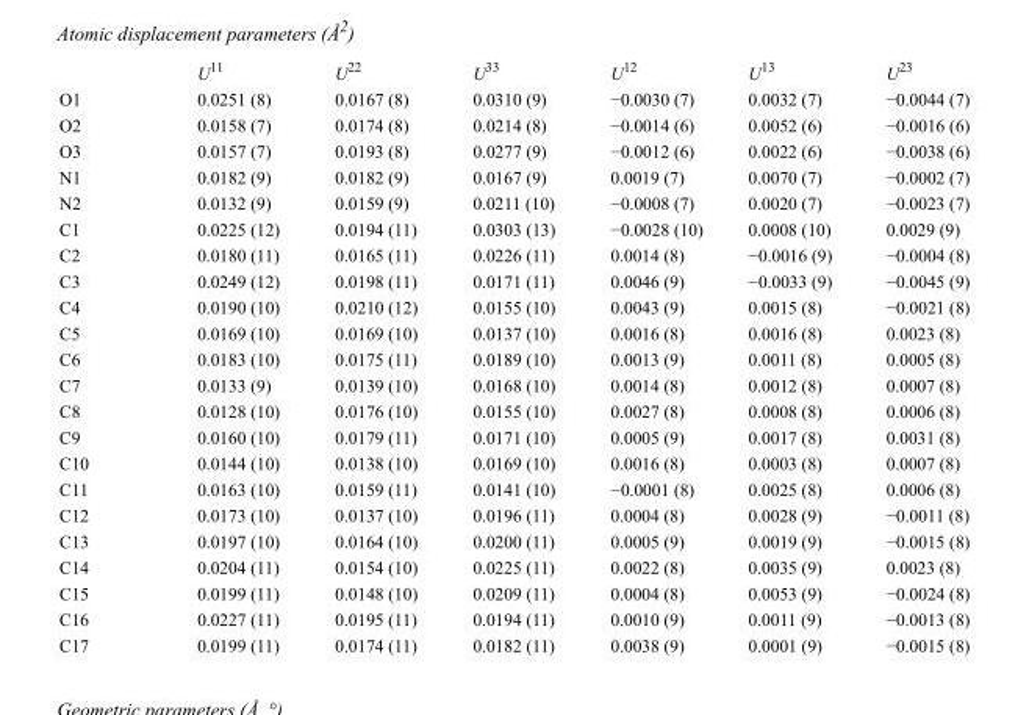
<table><thead><tr><td></td><td>U<sup>11</sup></td><td>U<sup>22</sup></td><td>U<sup>33</sup></td><td>U<sup>12</sup></td><td>U<sup>13</sup></td><td>U<sup>23</sup></td></tr></thead><tbody><tr><td>O1</td><td>0.0251 (8)</td><td>0.0167 (8)</td><td>0.0310 (9)</td><td>−0.0030 (7)</td><td>0.0032 (7)</td><td>−0.0044 (7)</td></tr><tr><td>O2</td><td>0.0158 (7)</td><td>0.0174 (8)</td><td>0.0214 (8)</td><td>−0.0014 (6)</td><td>0.0052 (6)</td><td>−0.0016 (6)</td></tr><tr><td>O3</td><td>0.0157 (7)</td><td>0.0193 (8)</td><td>0.0277 (9)</td><td>−0.0012 (6)</td><td>0.0022 (6)</td><td>−0.0038 (6)</td></tr><tr><td>N1</td><td>0.0182 (9)</td><td>0.0182 (9)</td><td>0.0167 (9)</td><td>0.0019 (7)</td><td>0.0070 (7)</td><td>−0.0002 (7)</td></tr><tr><td>N2</td><td>0.0132 (9)</td><td>0.0159 (9)</td><td>0.0211 (10)</td><td>−0.0008 (7)</td><td>0.0020 (7)</td><td>−0.0023 (7)</td></tr><tr><td>C1</td><td>0.0225 (12)</td><td>0.0194 (11)</td><td>0.0303 (13)</td><td>−0.0028 (10)</td><td>0.0008 (10)</td><td>0.0029 (9)</td></tr><tr><td>C2</td><td>0.0180 (11)</td><td>0.0165 (11)</td><td>0.0226 (11)</td><td>0.0014 (8)</td><td>−0.0016 (9)</td><td>−0.0004 (8)</td></tr><tr><td>C3</td><td>0.0249 (12)</td><td>0.0198 (11)</td><td>0.0171 (11)</td><td>0.0046 (9)</td><td>−0.0033 (9)</td><td>−0.0045 (9)</td></tr><tr><td>C4</td><td>0.0190 (10)</td><td>0.0210 (12)</td><td>0.0155 (10)</td><td>0.0043 (9)</td><td>0.0015 (8)</td><td>−0.0021 (8)</td></tr><tr><td>C5</td><td>0.0169 (10)</td><td>0.0169 (10)</td><td>0.0137 (10)</td><td>0.0016 (8)</td><td>0.0016 (8)</td><td>0.0023 (8)</td></tr><tr><td>C6</td><td>0.0183 (10)</td><td>0.0175 (11)</td><td>0.0189 (10)</td><td>0.0013 (9)</td><td>0.0011 (8)</td><td>0.0005 (8)</td></tr><tr><td>C7</td><td>0.0133 (9)</td><td>0.0139 (10)</td><td>0.0168 (10)</td><td>0.0014 (8)</td><td>0.0012 (8)</td><td>0.0007 (8)</td></tr><tr><td>C8</td><td>0.0128 (10)</td><td>0.0176 (10)</td><td>0.0155 (10)</td><td>0.0027 (8)</td><td>0.0008 (8)</td><td>0.0006 (8)</td></tr><tr><td>C9</td><td>0.0160 (10)</td><td>0.0179 (11)</td><td>0.0171 (10)</td><td>0.0005 (9)</td><td>0.0017 (8)</td><td>0.0031 (8)</td></tr><tr><td>C10</td><td>0.0144 (10)</td><td>0.0138 (10)</td><td>0.0169 (10)</td><td>0.0016 (8)</td><td>0.0003 (8)</td><td>0.0007 (8)</td></tr><tr><td>C11</td><td>0.0163 (10)</td><td>0.0159 (11)</td><td>0.0141 (10)</td><td>−0.0001 (8)</td><td>0.0025 (8)</td><td>0.0006 (8)</td></tr><tr><td>C12</td><td>0.0173 (10)</td><td>0.0137 (10)</td><td>0.0196 (11)</td><td>0.0004 (8)</td><td>0.0028 (9)</td><td>−0.0011 (8)</td></tr><tr><td>C13</td><td>0.0197 (10)</td><td>0.0164 (10)</td><td>0.0200 (11)</td><td>0.0005 (9)</td><td>0.0019 (9)</td><td>−0.0015 (8)</td></tr><tr><td>C14</td><td>0.0204 (11)</td><td>0.0154 (10)</td><td>0.0225 (11)</td><td>0.0022 (8)</td><td>0.0035 (9)</td><td>0.0023 (8)</td></tr><tr><td>C15</td><td>0.0199 (11)</td><td>0.0148 (10)</td><td>0.0209 (11)</td><td>0.0004 (8)</td><td>0.0053 (9)</td><td>−0.0024 (8)</td></tr><tr><td>C16</td><td>0.0227 (11)</td><td>0.0195 (11)</td><td>0.0194 (11)</td><td>0.0010 (9)</td><td>0.0011 (9)</td><td>−0.0013 (8)</td></tr><tr><td>C17</td><td>0.0199 (11)</td><td>0.0174 (11)</td><td>0.0182 (11)</td><td>0.0038 (9)</td><td>0.0001 (9)</td><td>−0.0015 (8)</td></tr></tbody></table>